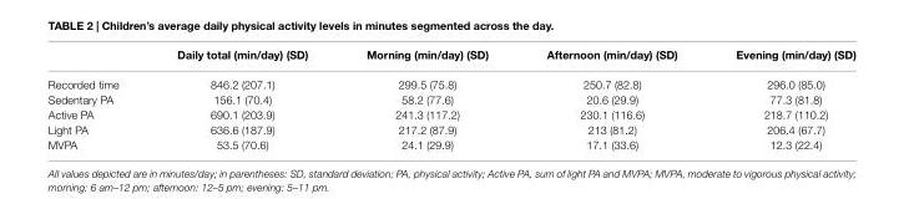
<table><thead><tr><td></td><td>Daily total (min/day) (SD)</td><td>Morning (min/day) (SD)</td><td>Afternoon (min/day) (SD)</td><td>Evening (min/day) (SD)</td></tr></thead><tbody><tr><td>Recorded time</td><td>846.2 (207.1)</td><td>299.5 (75.8)</td><td>250.7 (82.8)</td><td>296.0 (85.0)</td></tr><tr><td>Sedentary PA</td><td>156.1 (70.4)</td><td>58.2 (77.6)</td><td>20.6 (29.9)</td><td>77.3 (81.8)</td></tr><tr><td>Active PA</td><td>690.1 (203.9)</td><td>241.3 (117.2)</td><td>230.1 (116.6)</td><td>218.7 (110.2)</td></tr><tr><td>Light PA</td><td>636.6 (187.9)</td><td>217.2 (87.9)</td><td>213 (81.2)</td><td>206.4 (67.7)</td></tr><tr><td>MVPA</td><td>53.5 (70.6)</td><td>24.1 (29.9)</td><td>17.1 (33.6)</td><td>12.3 (22.4)</td></tr></tbody></table>